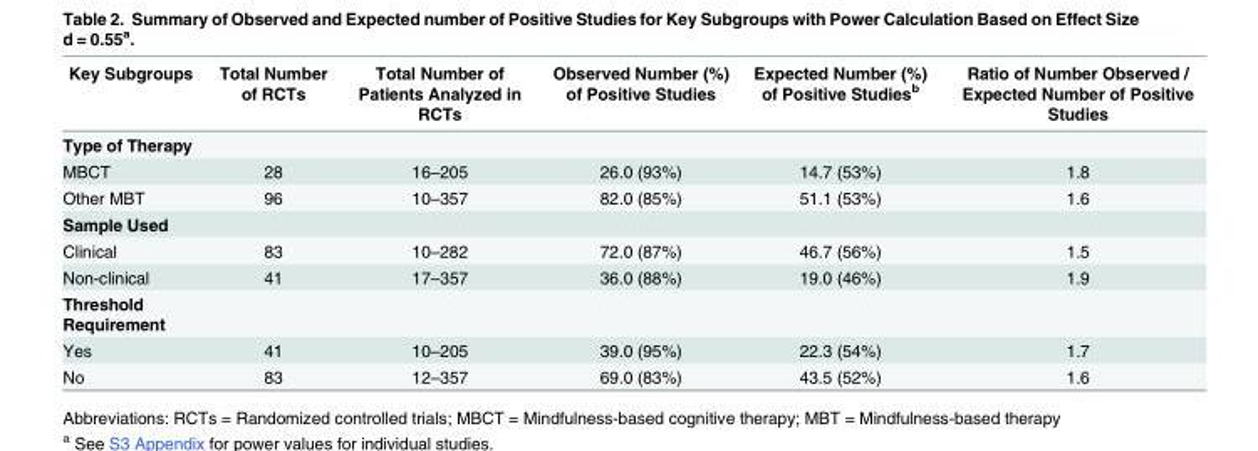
<table><thead><tr><td>Key Subgroups</td><td>Total Number of RCTs</td><td>Total Number of Patients Analyzed in RCTs</td><td>Observed Number (%) of Positive Studies</td><td>Expected Number (%) of Positive Studies<sup>b</sup></td><td>Ratio of Number Observed / Expected Number of Positive Studies</td></tr></thead><tbody><tr><td colspan="6">Type of Therapy</td></tr><tr><td>MBCT</td><td>28</td><td>16–205</td><td>26.0 (93%)</td><td>14.7 (53%)</td><td>1.8</td></tr><tr><td>Other MBT</td><td>96</td><td>10–357</td><td>82.0 (85%)</td><td>51.1 (53%)</td><td>1.6</td></tr><tr><td colspan="6">Sample Used</td></tr><tr><td>Clinical</td><td>83</td><td>10–282</td><td>72.0 (87%)</td><td>46.7 (56%)</td><td>1.5</td></tr><tr><td>Non-clinical</td><td>41</td><td>17–357</td><td>36.0 (88%)</td><td>19.0 (46%)</td><td>1.9</td></tr><tr><td colspan="6">Threshold Requirement</td></tr><tr><td>Yes</td><td>41</td><td>10–205</td><td>39.0 (95%)</td><td>22.3 (54%)</td><td>1.7</td></tr><tr><td>No</td><td>83</td><td>12–357</td><td>69.0 (83%)</td><td>43.5 (52%)</td><td>1.6</td></tr></tbody></table>